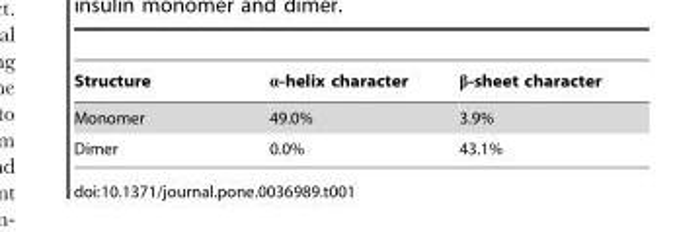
<table><thead><tr><td>Structure</td><td>α-helix character</td><td>β-sheet character</td></tr></thead><tbody><tr><td>Monomer</td><td>49.0%</td><td>3.9%</td></tr><tr><td>Dimer</td><td>0.0%</td><td>43.1%</td></tr></tbody></table>